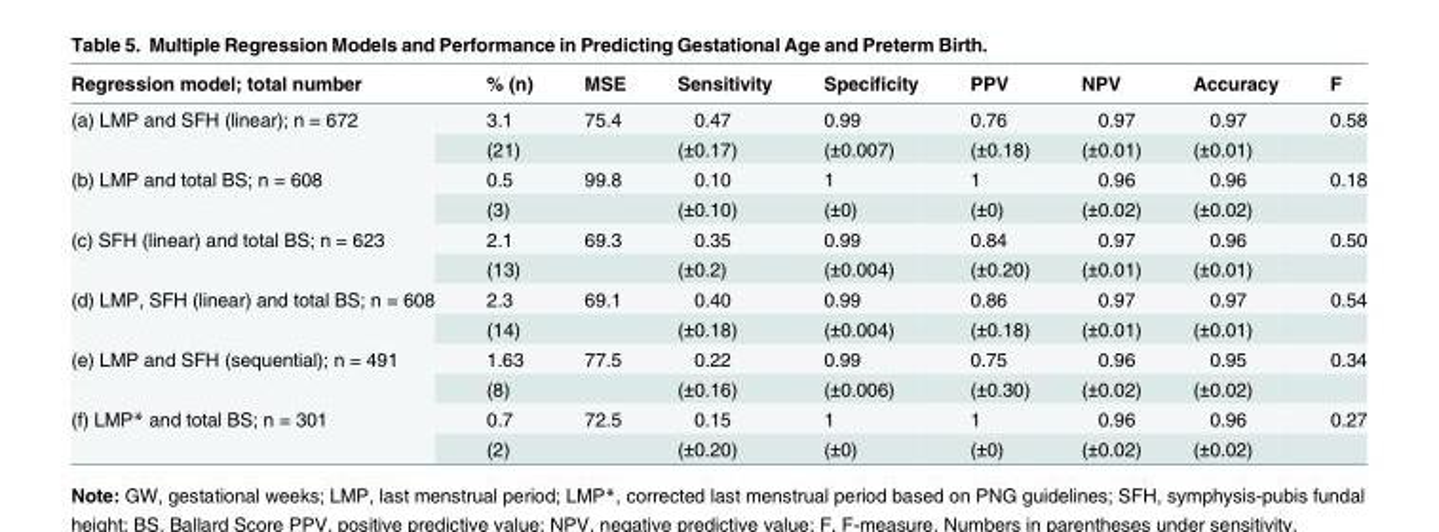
<table><thead><tr><td>Regression model; total number</td><td>% (n)</td><td>MSE</td><td>Sensitivity</td><td>Specificity</td><td>PPV</td><td>NPV</td><td>Accuracy</td><td>F</td></tr></thead><tbody><tr><td rowspan="2">(a) LMP and SFH (linear); n = 672</td><td>3.1</td><td>75.4</td><td>0.47</td><td>0.99</td><td>0.76</td><td>0.97</td><td>0.97</td><td>0.58</td></tr><tr><td>(21)</td><td></td><td>(±0.17)</td><td>(±0.007)</td><td>(±0.18)</td><td>(±0.01)</td><td>(±0.01)</td><td></td></tr><tr><td rowspan="2">(b) LMP and total BS; n = 608</td><td>0.5</td><td>99.8</td><td>0.10</td><td>1</td><td>1</td><td>0.96</td><td>0.96</td><td>0.18</td></tr><tr><td>(3)</td><td></td><td>(±0.10)</td><td>(±0)</td><td>(±0)</td><td>(±0.02)</td><td>(±0.02)</td><td></td></tr><tr><td rowspan="2">(c) SFH (linear) and total BS; n = 623</td><td>2.1</td><td>69.3</td><td>0.35</td><td>0.99</td><td>0.84</td><td>0.97</td><td>0.96</td><td>0.50</td></tr><tr><td>(13)</td><td></td><td>(±0.2)</td><td>(±0.004)</td><td>(±0.20)</td><td>(±0.01)</td><td>(±0.01)</td><td></td></tr><tr><td rowspan="2">(d) LMP, SFH (linear) and total BS; n = 608</td><td>2.3</td><td>69.1</td><td>0.40</td><td>0.99</td><td>0.86</td><td>0.97</td><td>0.97</td><td>0.54</td></tr><tr><td>(14)</td><td></td><td>(±0.18)</td><td>(±0.004)</td><td>(±0.18)</td><td>(±0.01)</td><td>(±0.01)</td><td></td></tr><tr><td rowspan="2">(e) LMP and SFH (sequential); n = 491</td><td>1.63</td><td>77.5</td><td>0.22</td><td>0.99</td><td>0.75</td><td>0.96</td><td>0.95</td><td>0.34</td></tr><tr><td>(8)</td><td></td><td>(±0.16)</td><td>(±0.006)</td><td>(±0.30)</td><td>(±0.02)</td><td>(±0.02)</td><td></td></tr><tr><td rowspan="2">(f) LMP* and total BS; n = 301</td><td>0.7</td><td>72.5</td><td>0.15</td><td>1</td><td>1</td><td>0.96</td><td>0.96</td><td>0.27</td></tr><tr><td>(2)</td><td></td><td>(±0.20)</td><td>(±0)</td><td>(±0)</td><td>(±0.02)</td><td>(±0.02)</td><td></td></tr></tbody></table>